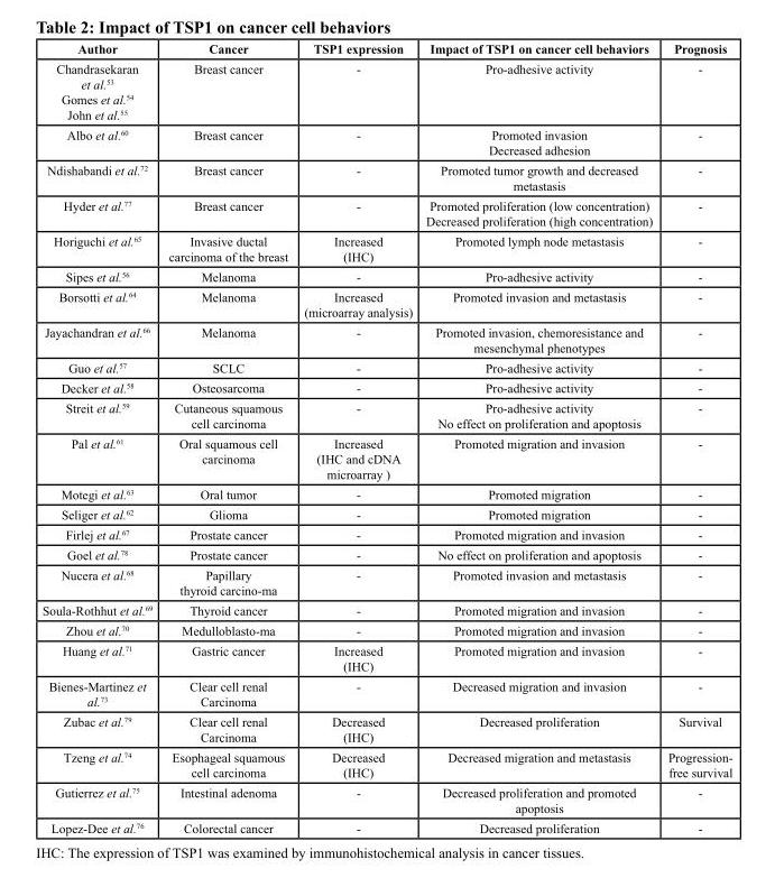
<table><thead><tr><td>Author</td><td>Cancer</td><td>TSP1 expression</td><td>Impact of TSP1 on cancer cell behaviors</td><td>Prognosis</td></tr></thead><tbody><tr><td>Chandrasekaran et al.<sup>53</sup> Gomes et al.<sup>54</sup> John et al.<sup>55</sup></td><td>Breast cancer</td><td>-</td><td>Pro-adhesive activity</td><td>-</td></tr><tr><td>Albo et al.<sup>60</sup></td><td>Breast cancer</td><td>-</td><td>Promoted invasion Decreased adhesion</td><td>-</td></tr><tr><td>Ndishabandi et al.<sup>72</sup></td><td>Breast cancer</td><td>-</td><td>Promoted tumor growth and decreased metastasis</td><td>-</td></tr><tr><td>Hyder et al.<sup>77</sup></td><td>Breast cancer</td><td>-</td><td>Promoted proliferation (low concentration) Decreased proliferation (high concentration)</td><td>-</td></tr><tr><td>Horiguchi et al.<sup>65</sup></td><td>Invasive ductal carcinoma of the breast</td><td>Increased (IHC)</td><td>Promoted lymph node metastasis</td><td>-</td></tr><tr><td>Sipes et al.<sup>56</sup></td><td>Melanoma</td><td>-</td><td>Pro-adhesive activity</td><td>-</td></tr><tr><td>Borsotti et al.<sup>64</sup></td><td>Melanoma</td><td>Increased (microarray analysis)</td><td>Promoted invasion and metastasis</td><td>-</td></tr><tr><td>Jayachandran et al.<sup>66</sup></td><td>Melanoma</td><td>-</td><td>Promoted invasion, chemoresistance and mesenchymal phenotypes</td><td>-</td></tr><tr><td>Guo et al.<sup>57</sup></td><td>SCLC</td><td>-</td><td>Pro-adhesive activity</td><td>-</td></tr><tr><td>Decker et al.<sup>58</sup></td><td>Osteosarcoma</td><td>-</td><td>Pro-adhesive activity</td><td>-</td></tr><tr><td>Streit et al.<sup>59</sup></td><td>Cutaneous squamous cell carcinoma</td><td>-</td><td>Pro-adhesive activity No effect on proliferation and apoptosis</td><td>-</td></tr><tr><td>Pal et al.<sup>61</sup></td><td>Oral squamous cell carcinoma</td><td>Increased (IHC and cDNA microarray )</td><td>Promoted migration and invasion</td><td>-</td></tr><tr><td>Motegi et al.<sup>63</sup></td><td>Oral tumor</td><td>-</td><td>Promoted migration</td><td>-</td></tr><tr><td>Seliger et al.<sup>62</sup></td><td>Glioma</td><td>-</td><td>Promoted migration</td><td>-</td></tr><tr><td>Firlej et al.<sup>67</sup></td><td>Prostate cancer</td><td>-</td><td>Promoted migration and invasion</td><td>-</td></tr><tr><td>Goel et al.<sup>78</sup></td><td>Prostate cancer</td><td>-</td><td>No effect on proliferation and apoptosis</td><td>-</td></tr><tr><td>Nucera et al.<sup>68</sup></td><td>Papillary thyroid carcino-ma</td><td>-</td><td>Promoted invasion and metastasis</td><td>-</td></tr><tr><td>Soula-Rothhut et al.<sup>69</sup></td><td>Thyroid cancer</td><td>-</td><td>Promoted migration and invasion</td><td>-</td></tr><tr><td>Zhou et al.<sup>70</sup></td><td>Medulloblasto-ma</td><td>-</td><td>Promoted migration and invasion</td><td>-</td></tr><tr><td>Huang et al.<sup>71</sup></td><td>Gastric cancer</td><td>Increased (IHC)</td><td>Promoted migration and invasion</td><td>-</td></tr><tr><td>Bienes-Martinez et al.<sup>73</sup></td><td>Clear cell renal Carcinoma</td><td>-</td><td>Decreased migration and invasion</td><td>-</td></tr><tr><td>Zubac et al.<sup>79</sup></td><td>Clear cell renal Carcinoma</td><td>Decreased (IHC)</td><td>Decreased proliferation</td><td>Survival</td></tr><tr><td>Tzeng et al.<sup>74</sup></td><td>Esophageal squamous cell carcinoma</td><td>Decreased (IHC)</td><td>Decreased migration and metastasis</td><td>Progression- free survival</td></tr><tr><td>Gutierrez et al.<sup>75</sup></td><td>Intestinal adenoma</td><td>-</td><td>Decreased proliferation and promoted apoptosis</td><td>-</td></tr><tr><td>Lopez-Dee et al.<sup>76</sup></td><td>Colorectal cancer</td><td>-</td><td>Decreased proliferation</td><td>-</td></tr></tbody></table>